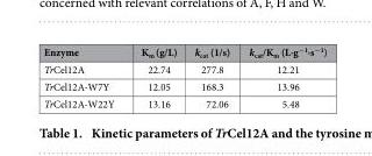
<table><thead><tr><td>Enzyme</td><td>K<sub>m</sub> (g/L)</td><td>k<sub>cat</sub> (1/s)</td><td>k<sub>cat</sub>/K<sub>m</sub> (L·g<sup>−1</sup>·s<sup>−1</sup>)</td></tr></thead><tbody><tr><td>TrCel12A</td><td>22.74</td><td>277.8</td><td>12.21</td></tr><tr><td>TrCel12A-W7Y</td><td>12.05</td><td>168.3</td><td>13.96</td></tr><tr><td>TrCel12A-W22Y</td><td>13.16</td><td>72.06</td><td>5.48</td></tr></tbody></table>